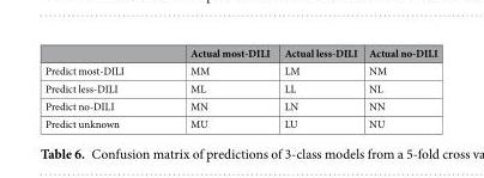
<table><thead><tr><td></td><td>Actual most-DILI</td><td>Actual less-DILI</td><td>Actual no-DILI</td></tr></thead><tbody><tr><td>Predict most-DILI</td><td>MM</td><td>LM</td><td>NM</td></tr><tr><td>Predict less-DILI</td><td>ML</td><td>LL</td><td>NL</td></tr><tr><td>Predict no-DILI</td><td>MN</td><td>LN</td><td>NN</td></tr><tr><td>Predict unknown</td><td>MU</td><td>LU</td><td>NU</td></tr></tbody></table>